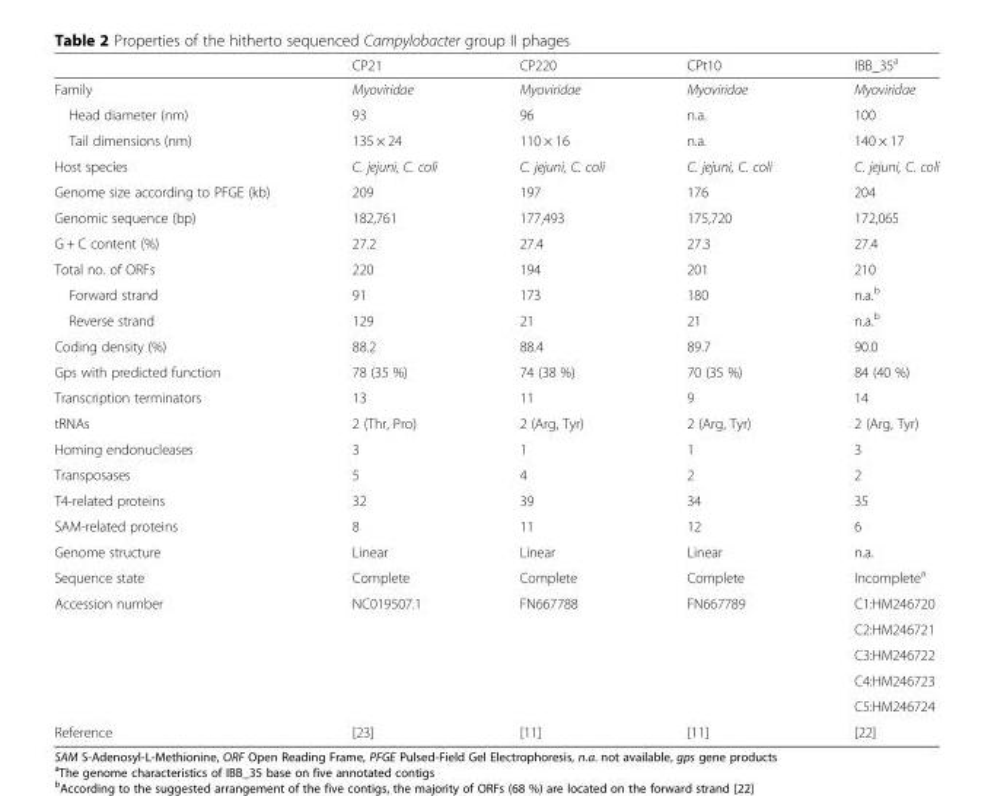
<table><thead><tr><td></td><td>CP21</td><td>CP220</td><td>CPt10</td><td>IBB_35<sup>a</sup></td></tr></thead><tbody><tr><td>Family</td><td>Myoviridae</td><td>Myoviridae</td><td>Myoviridae</td><td>Myoviridae</td></tr><tr><td>Head diameter (nm)</td><td>93</td><td>96</td><td>n.a.</td><td>100</td></tr><tr><td>Tail dimensions (nm)</td><td>135 × 24</td><td>110 × 16</td><td>n.a.</td><td>140 × 17</td></tr><tr><td>Host species</td><td>C. jejuni, C. coli</td><td>C. jejuni, C. coli</td><td>C. jejuni, C. coli</td><td>C. jejuni, C. coli</td></tr><tr><td>Genome size according to PFGE (kb)</td><td>209</td><td>197</td><td>176</td><td>204</td></tr><tr><td>Genomic sequence (bp)</td><td>182,761</td><td>177,493</td><td>175,720</td><td>172,065</td></tr><tr><td>G + C content (%)</td><td>27.2</td><td>27.4</td><td>27.3</td><td>27.4</td></tr><tr><td>Total no. of ORFs</td><td>220</td><td>194</td><td>201</td><td>210</td></tr><tr><td>Forward strand</td><td>91</td><td>173</td><td>180</td><td>n.a.<sup>b</sup></td></tr><tr><td>Reverse strand</td><td>129</td><td>21</td><td>21</td><td>n.a.<sup>b</sup></td></tr><tr><td>Coding density (%)</td><td>88.2</td><td>88.4</td><td>89.7</td><td>90.0</td></tr><tr><td>Gps with predicted function</td><td>78 (35 %)</td><td>74 (38 %)</td><td>70 (35 %)</td><td>84 (40 %)</td></tr><tr><td>Transcription terminators</td><td>13</td><td>11</td><td>9</td><td>14</td></tr><tr><td>tRNAs</td><td>2 (Thr, Pro)</td><td>2 (Arg, Tyr)</td><td>2 (Arg, Tyr)</td><td>2 (Arg, Tyr)</td></tr><tr><td>Homing endonucleases</td><td>3</td><td>1</td><td>1</td><td>3</td></tr><tr><td>Transposases</td><td>5</td><td>4</td><td>2</td><td>2</td></tr><tr><td>T4-related proteins</td><td>32</td><td>39</td><td>34</td><td>35</td></tr><tr><td>SAM-related proteins</td><td>8</td><td>11</td><td>12</td><td>6</td></tr><tr><td>Genome structure</td><td>Linear</td><td>Linear</td><td>Linear</td><td>n.a.</td></tr><tr><td>Sequence state</td><td>Complete</td><td>Complete</td><td>Complete</td><td>Incomplete<sup>a</sup></td></tr><tr><td rowspan="5">Accession number</td><td rowspan="5">NC019507.1</td><td rowspan="5">FN667788</td><td rowspan="5">FN667789</td><td>C1:HM246720</td></tr><tr><td>C2:HM246721</td></tr><tr><td>C3:HM246722</td></tr><tr><td>C4:HM246723</td></tr><tr><td>C5:HM246724</td></tr><tr><td>Reference</td><td>[23]</td><td>[11]</td><td>[11]</td><td>[22]</td></tr></tbody></table>